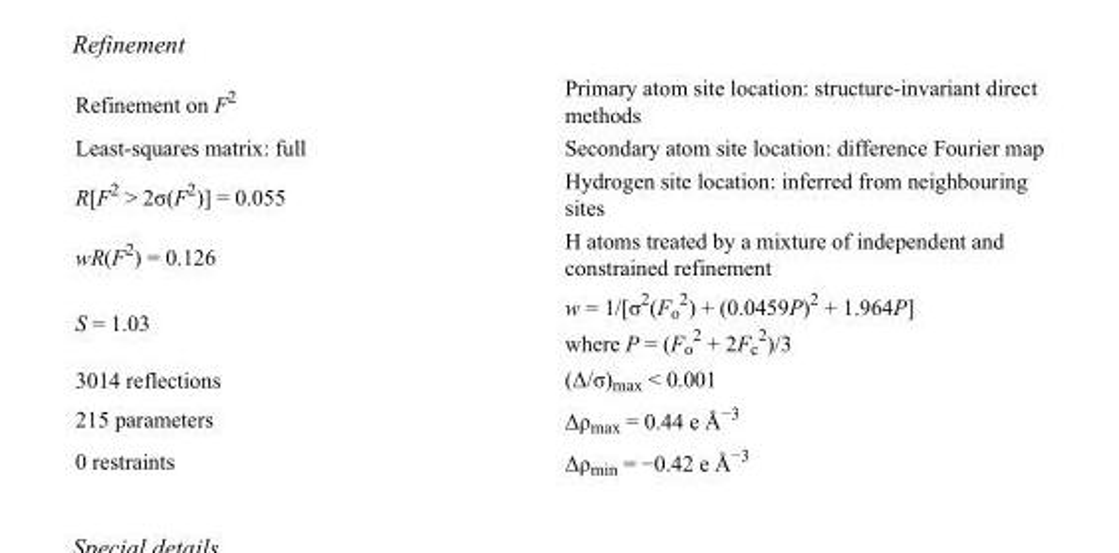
<table><tbody><tr><td>Refinement on F<sup>2</sup></td><td>Primary atom site location: structure-invariant direct methods</td></tr><tr><td>Least-squares matrix: full</td><td>Secondary atom site location: difference Fourier map</td></tr><tr><td>R[F<sup>2</sup> &gt; 2σ(F<sup>2</sup>)] = 0.055</td><td>Hydrogen site location: inferred from neighbouring sites</td></tr><tr><td>wR(F<sup>2</sup>) = 0.126</td><td>H atoms treated by a mixture of independent and constrained refinement</td></tr><tr><td>S = 1.03</td><td>w = 1/[σ<sup>2</sup>(F<sub>o</sub> <sup>2</sup>) + (0.0459P)<sup>2</sup> + 1.964P] where P = (F<sub>o</sub> <sup>2</sup> + 2F<sub>c</sub> <sup>2</sup>)/3</td></tr><tr><td>3014 reflections</td><td>(Δ/σ)<sub>max</sub> &lt; 0.001</td></tr><tr><td>215 parameters</td><td>Δρ<sub>max</sub> = 0.44 e Å<sup>−3</sup></td></tr><tr><td>0 restraints</td><td>Δρ<sub>min</sub> = −0.42 e Å<sup>−3</sup></td></tr></tbody></table>